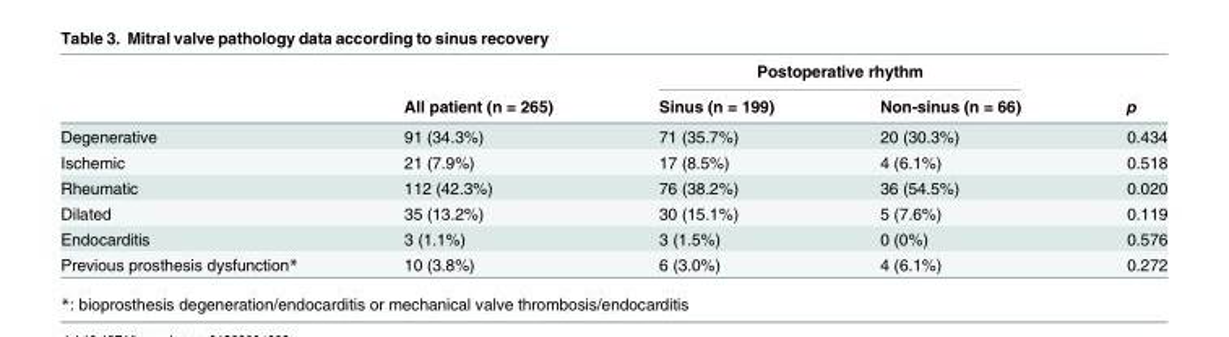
<table><thead><tr><td rowspan="2"></td><td rowspan="2">All patient (n = 265)</td><td colspan="2">Postoperative rhythm</td><td rowspan="2">p</td></tr><tr><td>Sinus (n = 199)</td><td>Non-sinus (n = 66)</td></tr></thead><tbody><tr><td>Degenerative</td><td>91 (34.3%)</td><td>71 (35.7%)</td><td>20 (30.3%)</td><td>0.434</td></tr><tr><td>Ischemic</td><td>21 (7.9%)</td><td>17 (8.5%)</td><td>4 (6.1%)</td><td>0.518</td></tr><tr><td>Rheumatic</td><td>112 (42.3%)</td><td>76 (38.2%)</td><td>36 (54.5%)</td><td>0.020</td></tr><tr><td>Dilated</td><td>35 (13.2%)</td><td>30 (15.1%)</td><td>5 (7.6%)</td><td>0.119</td></tr><tr><td>Endocarditis</td><td>3 (1.1%)</td><td>3 (1.5%)</td><td>0 (0%)</td><td>0.576</td></tr><tr><td>Previous prosthesis dysfunction*</td><td>10 (3.8%)</td><td>6 (3.0%)</td><td>4 (6.1%)</td><td>0.272</td></tr></tbody></table>